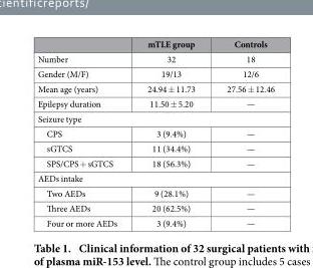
<table><thead><tr><td></td><td>mTLE group</td><td>Controls</td></tr></thead><tbody><tr><td>Number</td><td>32</td><td>18</td></tr><tr><td>Gender (M/F)</td><td>19/13</td><td>12/6</td></tr><tr><td>Mean age (years)</td><td>24.94 ± 11.73</td><td>27.56 ± 12.46</td></tr><tr><td>Epilepsy duration</td><td>11.50 ± 5.20</td><td>—</td></tr><tr><td colspan="3">Seizure type</td></tr><tr><td>CPS</td><td>3 (9.4%)</td><td>—</td></tr><tr><td>sGTCS</td><td>11 (34.4%)</td><td>—</td></tr><tr><td>SPS/CPS + sGTCS</td><td>18 (56.3%)</td><td>—</td></tr><tr><td colspan="3">AEDs intake</td></tr><tr><td>Two AEDs</td><td>9 (28.1%)</td><td>—</td></tr><tr><td>Three AEDs</td><td>20 (62.5%)</td><td>—</td></tr><tr><td>Four or more AEDs</td><td>3 (9.4%)</td><td>—</td></tr></tbody></table>